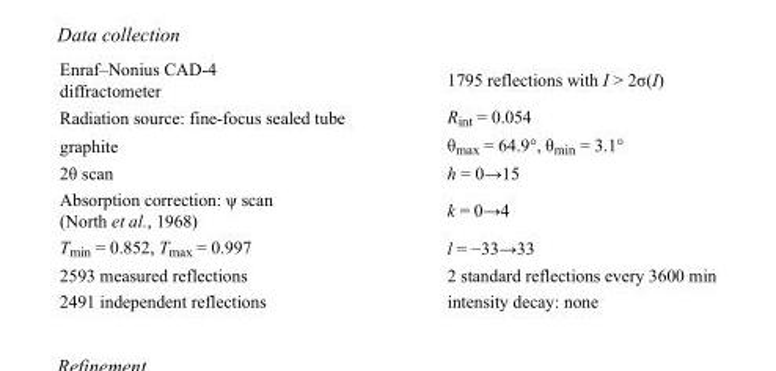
<table><tbody><tr><td>Enraf–Nonius CAD-4 diffractometer</td><td>1795 reflections with I &gt; 2σ(I)</td></tr><tr><td>Radiation source: fine-focus sealed tube</td><td>R<sub>int</sub> = 0.054</td></tr><tr><td>graphite</td><td>θ<sub>max</sub> = 64.9°, θ<sub>min</sub> = 3.1°</td></tr><tr><td>2θ scan</td><td>h = 0→15</td></tr><tr><td>Absorption correction: ψ scan (North et al., 1968)</td><td>k = 0→4</td></tr><tr><td>T<sub>min</sub> = 0.852, T<sub>max</sub> = 0.997</td><td>l = −33→33</td></tr><tr><td>2593 measured reflections</td><td>2 standard reflections every 3600 min</td></tr><tr><td>2491 independent reflections</td><td>intensity decay: none</td></tr></tbody></table>